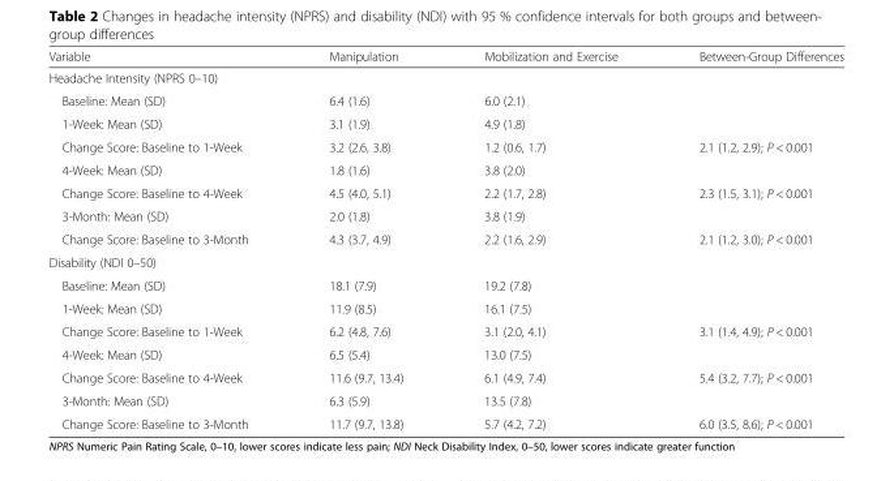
<table><thead><tr><td>Variable</td><td>Manipulation</td><td>Mobilization and Exercise</td><td>Between-Group Differences</td></tr></thead><tbody><tr><td colspan="4">Headache Intensity (NPRS 0–10)</td></tr><tr><td>Baseline: Mean (SD)</td><td>6.4 (1.6)</td><td>6.0 (2.1)</td><td rowspan="2"></td></tr><tr><td>1-Week: Mean (SD)</td><td>3.1 (1.9)</td><td>4.9 (1.8)</td></tr><tr><td>Change Score: Baseline to 1-Week</td><td>3.2 (2.6, 3.8)</td><td>1.2 (0.6, 1.7)</td><td>2.1 (1.2, 2.9); P &lt; 0.001</td></tr><tr><td>4-Week: Mean (SD)</td><td>1.8 (1.6)</td><td>3.8 (2.0)</td><td></td></tr><tr><td>Change Score: Baseline to 4-Week</td><td>4.5 (4.0, 5.1)</td><td>2.2 (1.7, 2.8)</td><td>2.3 (1.5, 3.1); P &lt; 0.001</td></tr><tr><td>3-Month: Mean (SD)</td><td>2.0 (1.8)</td><td>3.8 (1.9)</td><td></td></tr><tr><td>Change Score: Baseline to 3-Month</td><td>4.3 (3.7, 4.9)</td><td>2.2 (1.6, 2.9)</td><td>2.1 (1.2, 3.0); P &lt; 0.001</td></tr><tr><td colspan="4">Disability (NDI 0–50)</td></tr><tr><td>Baseline: Mean (SD)</td><td>18.1 (7.9)</td><td>19.2 (7.8)</td><td rowspan="2"></td></tr><tr><td>1-Week: Mean (SD)</td><td>11.9 (8.5)</td><td>16.1 (7.5)</td></tr><tr><td>Change Score: Baseline to 1-Week</td><td>6.2 (4.8, 7.6)</td><td>3.1 (2.0, 4.1)</td><td>3.1 (1.4, 4.9); P &lt; 0.001</td></tr><tr><td>4-Week: Mean (SD)</td><td>6.5 (5.4)</td><td>13.0 (7.5)</td><td></td></tr><tr><td>Change Score: Baseline to 4-Week</td><td>11.6 (9.7, 13.4)</td><td>6.1 (4.9, 7.4)</td><td>5.4 (3.2, 7.7); P &lt; 0.001</td></tr><tr><td>3-Month: Mean (SD)</td><td>6.3 (5.9)</td><td>13.5 (7.8)</td><td></td></tr><tr><td>Change Score: Baseline to 3-Month</td><td>11.7 (9.7, 13.8)</td><td>5.7 (4.2, 7.2)</td><td>6.0 (3.5, 8.6); P &lt; 0.001</td></tr></tbody></table>